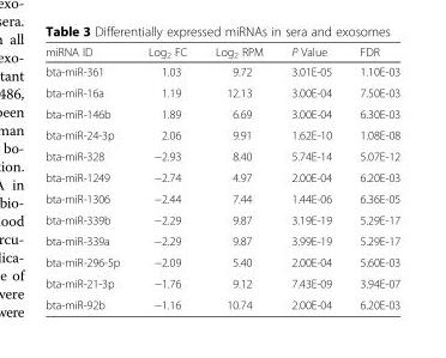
<table><thead><tr><td>miRNA ID</td><td>Log<sub>2</sub> FC</td><td>Log<sub>2</sub> RPM</td><td>P Value</td><td>FDR</td></tr></thead><tbody><tr><td>bta-miR-361</td><td>1.03</td><td>9.72</td><td>3.01E-05</td><td>1.10E-03</td></tr><tr><td>bta-miR-16a</td><td>1.19</td><td>12.13</td><td>3.00E-04</td><td>7.50E-03</td></tr><tr><td>bta-miR-146b</td><td>1.89</td><td>6.69</td><td>3.00E-04</td><td>6.30E-03</td></tr><tr><td>bta-miR-24-3p</td><td>2.06</td><td>9.91</td><td>1.62E-10</td><td>1.08E-08</td></tr><tr><td>bta-miR-328</td><td>−2.93</td><td>8.40</td><td>5.74E-14</td><td>5.07E-12</td></tr><tr><td>bta-miR-1249</td><td>−2.74</td><td>4.97</td><td>2.00E-04</td><td>6.20E-03</td></tr><tr><td>bta-miR-1306</td><td>−2.44</td><td>7.44</td><td>1.44E-06</td><td>6.36E-05</td></tr><tr><td>bta-miR-339b</td><td>−2.29</td><td>9.87</td><td>3.19E-19</td><td>5.29E-17</td></tr><tr><td>bta-miR-339a</td><td>−2.29</td><td>9.87</td><td>3.99E-19</td><td>5.29E-17</td></tr><tr><td>bta-miR-296-5p</td><td>−2.09</td><td>5.40</td><td>2.00E-04</td><td>5.60E-03</td></tr><tr><td>bta-miR-21-3p</td><td>−1.76</td><td>9.12</td><td>7.43E-09</td><td>3.94E-07</td></tr><tr><td>bta-miR-92b</td><td>−1.16</td><td>10.74</td><td>2.00E-04</td><td>6.20E-03</td></tr></tbody></table>